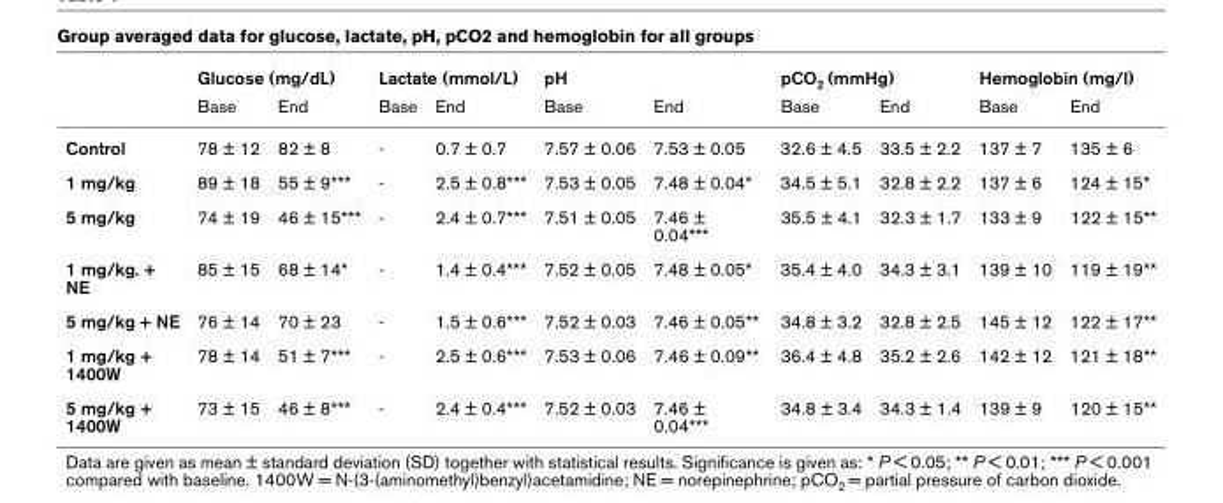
<table><thead><tr><td rowspan="2"></td><td colspan="2">Glucose (mg/dL)</td><td colspan="2">Lactate (mmol/L)</td><td colspan="2">pH</td><td colspan="2">pCO<sub>2</sub> (mmHg)</td><td colspan="2">Hemoglobin (mg/l)</td></tr><tr><td>Base</td><td>End</td><td>Base</td><td>End</td><td>Base</td><td>End</td><td>Base</td><td>End</td><td>Base</td><td>End</td></tr></thead><tbody><tr><td>Control</td><td>78 ± 12</td><td>82 ± 8</td><td>-</td><td>0.7 ± 0.7</td><td>7.57 ± 0.06</td><td>7.53 ± 0.05</td><td>32.6 ± 4.5</td><td>33.5 ± 2.2</td><td>137 ± 7</td><td>135 ± 6</td></tr><tr><td>1 mg/kg</td><td>89 ± 18</td><td>55 ± 9***</td><td>-</td><td>2.5 ± 0.8***</td><td>7.53 ± 0.05</td><td>7.48 ± 0.04*</td><td>34.5 ± 5.1</td><td>32.8 ± 2.2</td><td>137 ± 6</td><td>124 ± 15*</td></tr><tr><td>5 mg/kg</td><td>74 ± 19</td><td>46 ± 15***</td><td>-</td><td>2.4 ± 0.7***</td><td>7.51 ± 0.05</td><td>7.46 ± 0.04***</td><td>35.5 ± 4.1</td><td>32.3 ± 1.7</td><td>133 ± 9</td><td>122 ± 15**</td></tr><tr><td>1 mg/kg. + NE</td><td>85 ± 15</td><td>68 ± 14*</td><td>-</td><td>1.4 ± 0.4***</td><td>7.52 ± 0.05</td><td>7.48 ± 0.05*</td><td>35.4 ± 4.0</td><td>34.3 ± 3.1</td><td>139 ± 10</td><td>119 ± 19**</td></tr><tr><td>5 mg/kg + NE</td><td>76 ± 14</td><td>70 ± 23</td><td>-</td><td>1.5 ± 0.6***</td><td>7.52 ± 0.03</td><td>7.46 ± 0.05**</td><td>34.8 ± 3.2</td><td>32.8 ± 2.5</td><td>145 ± 12</td><td>122 ± 17**</td></tr><tr><td>1 mg/kg + 1400W</td><td>78 ± 14</td><td>51 ± 7***</td><td>-</td><td>2.5 ± 0.6***</td><td>7.53 ± 0.06</td><td>7.46 ± 0.09**</td><td>36.4 ± 4.8</td><td>35.2 ± 2.6</td><td>142 ± 12</td><td>121 ± 18**</td></tr><tr><td>5 mg/kg + 1400W</td><td>73 ± 15</td><td>46 ± 8***</td><td>-</td><td>2.4 ± 0.4***</td><td>7.52 ± 0.03</td><td>7.46 ± 0.04***</td><td>34.8 ± 3.4</td><td>34.3 ± 1.4</td><td>139 ± 9</td><td>120 ± 15**</td></tr></tbody></table>